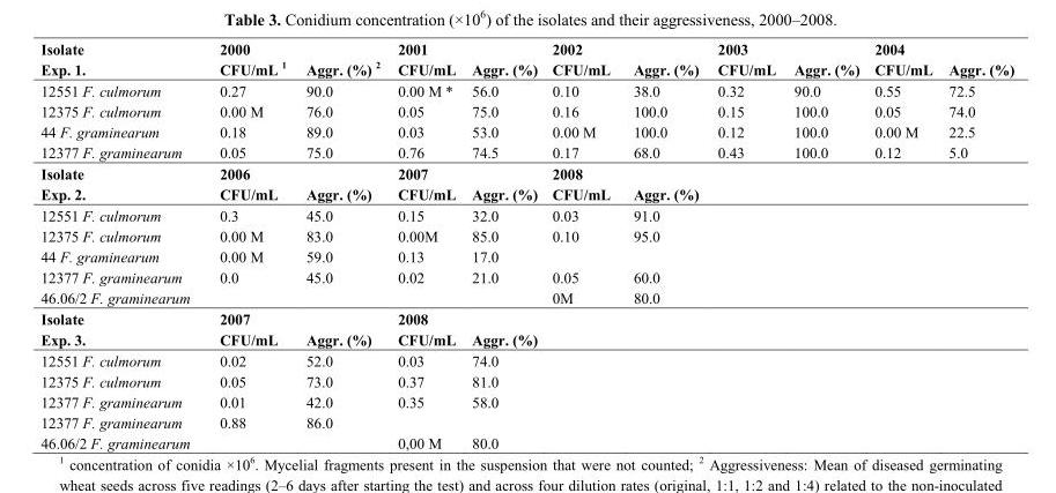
<table><thead><tr><td rowspan="2">Isolate Exp. 1.</td><td colspan="2">2000</td><td colspan="2">2001</td><td colspan="2">2002</td><td colspan="2">2003</td><td colspan="2">2004</td></tr><tr><td>CFU/mL <sup>1</sup></td><td>Aggr. (%) <sup>2</sup></td><td>CFU/mL</td><td>Aggr. (%)</td><td>CFU/mL</td><td>Aggr. (%)</td><td>CFU/mL</td><td>Aggr. (%)</td><td>CFU/mL</td><td>Aggr. (%)</td></tr></thead><tbody><tr><td>12551 F. culmorum</td><td>0.27</td><td>90.0</td><td>0.00 M *</td><td>56.0</td><td>0.10</td><td>38.0</td><td>0.32</td><td>90.0</td><td>0.55</td><td>72.5</td></tr><tr><td>12375 F. culmorum</td><td>0.00 M</td><td>76.0</td><td>0.05</td><td>75.0</td><td>0.16</td><td>100.0</td><td>0.15</td><td>100.0</td><td>0.05</td><td>74.0</td></tr><tr><td>44 F. graminearum</td><td>0.18</td><td>89.0</td><td>0.03</td><td>53.0</td><td>0.00 M</td><td>100.0</td><td>0.12</td><td>100.0</td><td>0.00 M</td><td>22.5</td></tr><tr><td>12377 F. graminearum</td><td>0.05</td><td>75.0</td><td>0.76</td><td>74.5</td><td>0.17</td><td>68.0</td><td>0.43</td><td>100.0</td><td>0.12</td><td>5.0</td></tr><tr><td>Isolate</td><td colspan="2">2006</td><td colspan="2">2007</td><td colspan="2">2008</td><td></td><td></td><td></td><td></td></tr><tr><td>Exp. 2.</td><td>CFU/mL</td><td>Aggr. (%)</td><td>CFU/mL</td><td>Aggr. (%)</td><td>CFU/mL</td><td>Aggr. (%)</td><td></td><td></td><td></td><td></td></tr><tr><td>12551 F. culmorum</td><td>0.3</td><td>45.0</td><td>0.15</td><td>32.0</td><td>0.03</td><td>91.0</td><td></td><td></td><td></td><td></td></tr><tr><td>12375 F. culmorum</td><td>0.00 M</td><td>83.0</td><td>0.00M</td><td>85.0</td><td>0.10</td><td>95.0</td><td></td><td></td><td></td><td></td></tr><tr><td>44 F. graminearum</td><td>0.00 M</td><td>59.0</td><td>0.13</td><td>17.0</td><td></td><td></td><td></td><td></td><td></td><td></td></tr><tr><td>12377 F. graminearum</td><td>0.0</td><td>45.0</td><td>0.02</td><td>21.0</td><td>0.05</td><td>60.0</td><td></td><td></td><td></td><td></td></tr><tr><td>46.06/2 F. graminearum</td><td></td><td></td><td></td><td></td><td>0M</td><td>80.0</td><td></td><td></td><td></td><td></td></tr><tr><td>Isolate</td><td colspan="2">2007</td><td colspan="2">2008</td><td></td><td></td><td></td><td></td><td></td><td></td></tr><tr><td>Exp. 3.</td><td>CFU/mL</td><td>Aggr. (%)</td><td>CFU/mL</td><td>Aggr. (%)</td><td></td><td></td><td></td><td></td><td></td><td></td></tr><tr><td>12551 F. culmorum</td><td>0.02</td><td>52.0</td><td>0.03</td><td>74.0</td><td></td><td></td><td></td><td></td><td></td><td></td></tr><tr><td>12375 F. culmorum</td><td>0.05</td><td>73.0</td><td>0.37</td><td>81.0</td><td></td><td></td><td></td><td></td><td></td><td></td></tr><tr><td>12377 F. graminearum</td><td>0.01</td><td>42.0</td><td>0.35</td><td>58.0</td><td></td><td></td><td></td><td></td><td></td><td></td></tr><tr><td>12377 F. graminearum</td><td>0.88</td><td>86.0</td><td></td><td></td><td></td><td></td><td></td><td></td><td></td><td></td></tr><tr><td>46.06/2 F. graminearum</td><td></td><td></td><td>0,00 M</td><td>80.0</td><td></td><td></td><td></td><td></td><td></td><td></td></tr></tbody></table>